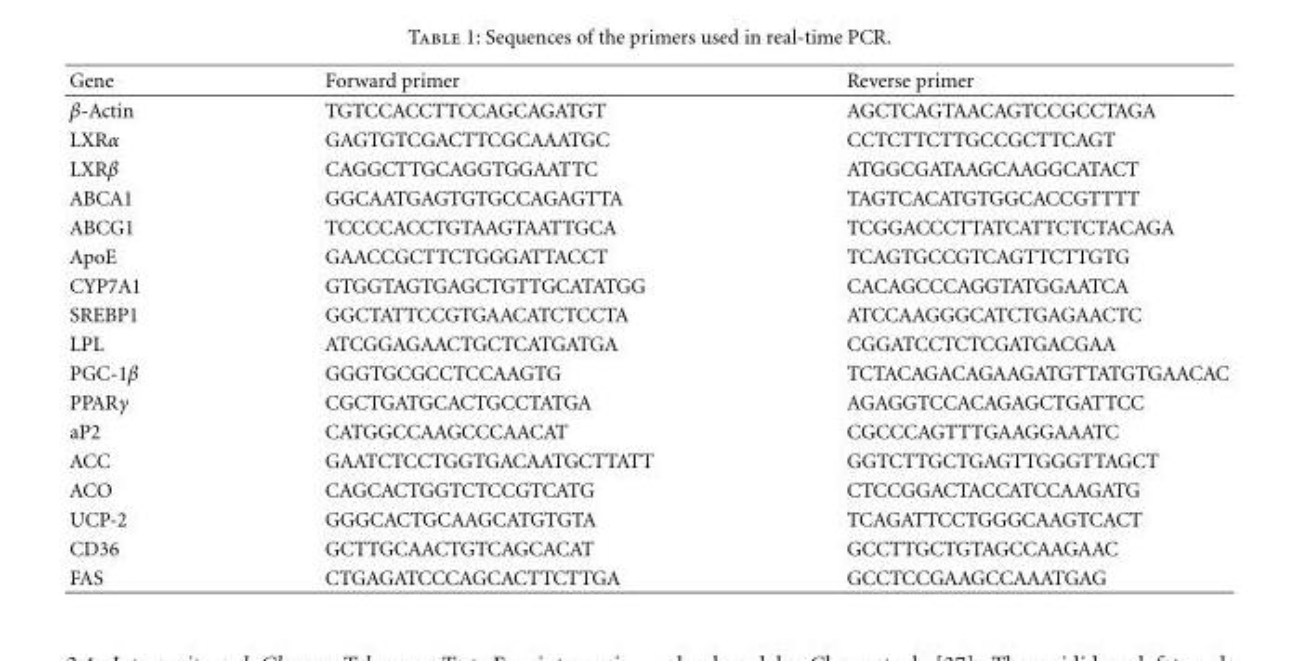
<table><thead><tr><td>Gene</td><td>Forward primer</td><td>Reverse primer</td></tr></thead><tbody><tr><td>β-Actin</td><td>TGTCCACCTTCCAGCAGATGT</td><td>AGCTCAGTAACAGTCCGCCTAGA</td></tr><tr><td>LXRα</td><td>GAGTGTCGACTTCGCAAATGC</td><td>CCTCTTCTTGCCGCTTCAGT</td></tr><tr><td>LXRβ</td><td>CAGGCTTGCAGGTGGAATTC</td><td>ATGGCGATAAGCAAGGCATACT</td></tr><tr><td>ABCA1</td><td>GGCAATGAGTGTGCCAGAGTTA</td><td>TAGTCACATGTGGCACCGTTTT</td></tr><tr><td>ABCG1</td><td>TCCCCACCTGTAAGTAATTGCA</td><td>TCGGACCCTTATCATTCTCTACAGA</td></tr><tr><td>ApoE</td><td>GAACCGCTTCTGGGATTACCT</td><td>TCAGTGCCGTCAGTTCTTGTG</td></tr><tr><td>CYP7A1</td><td>GTGGTAGTGAGCTGTTGCATATGG</td><td>CACAGCCCAGGTATGGAATCA</td></tr><tr><td>SREBP1</td><td>GGCTATTCCGTGAACATCTCCTA</td><td>ATCCAAGGGCATCTGAGAACTC</td></tr><tr><td>LPL</td><td>ATCGGAGAACTGCTCATGATGA</td><td>CGGATCCTCTCGATGACGAA</td></tr><tr><td>PGC-1β</td><td>GGGTGCGCCTCCAAGTG</td><td>TCTACAGACAGAAGATGTTATGTGAACAC</td></tr><tr><td>PPARγ</td><td>CGCTGATGCACTGCCTATGA</td><td>AGAGGTCCACAGAGCTGATTCC</td></tr><tr><td>aP2</td><td>CATGGCCAAGCCCAACAT</td><td>CGCCCAGTTTGAAGGAAATC</td></tr><tr><td>ACC</td><td>GAATCTCCTGGTGACAATGCTTATT</td><td>GGTCTTGCTGAGTTGGGTTAGCT</td></tr><tr><td>ACO</td><td>CAGCACTGGTCTCCGTCATG</td><td>CTCCGGACTACCATCCAAGATG</td></tr><tr><td>UCP-2</td><td>GGGCACTGCAAGCATGTGTA</td><td>TCAGATTCCTGGGCAAGTCACT</td></tr><tr><td>CD36</td><td>GCTTGCAACTGTCAGCACAT</td><td>GCCTTGCTGTAGCCAAGAAC</td></tr><tr><td>FAS</td><td>CTGAGATCCCAGCACTTCTTGA</td><td>GCCTCCGAAGCCAAATGAG</td></tr></tbody></table>